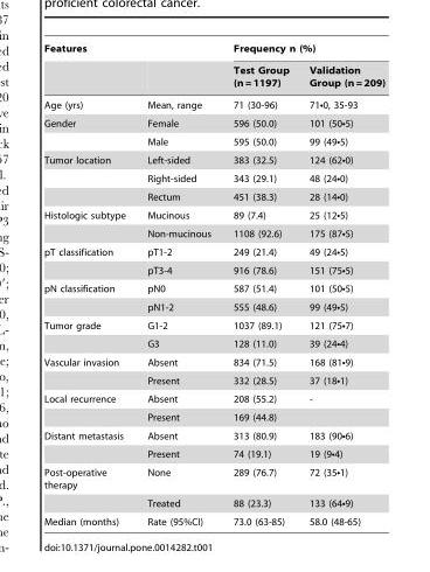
<table><thead><tr><td rowspan="2">Features</td><td rowspan="2"></td><td colspan="2">Frequency n (%)</td></tr><tr><td>Test Group (n = 1197)</td><td>Validation Group (n = 209)</td></tr></thead><tbody><tr><td>Age (yrs)</td><td>Mean, range</td><td>71 (30-96)</td><td>71•0, 35-93</td></tr><tr><td rowspan="2">Gender</td><td>Female</td><td>596 (50.0)</td><td>101 (50•5)</td></tr><tr><td>Male</td><td>595 (50.0)</td><td>99 (49•5)</td></tr><tr><td rowspan="3">Tumor location</td><td>Left-sided</td><td>383 (32.5)</td><td>124 (62•0)</td></tr><tr><td>Right-sided</td><td>343 (29.1)</td><td>48 (24•0)</td></tr><tr><td>Rectum</td><td>451 (38.3)</td><td>28 (14•0)</td></tr><tr><td rowspan="2">Histologic subtype</td><td>Mucinous</td><td>89 (7.4)</td><td>25 (12•5)</td></tr><tr><td>Non-mucinous</td><td>1108 (92.6)</td><td>175 (87•5)</td></tr><tr><td rowspan="2">pT classification</td><td>pT1-2</td><td>249 (21.4)</td><td>49 (24•5)</td></tr><tr><td>pT3-4</td><td>916 (78.6)</td><td>151 (75•5)</td></tr><tr><td rowspan="2">pN classification</td><td>pN0</td><td>587 (51.4)</td><td>101 (50•5)</td></tr><tr><td>pN1-2</td><td>555 (48.6)</td><td>99 (49•5)</td></tr><tr><td rowspan="2">Tumor grade</td><td>G1-2</td><td>1037 (89.1)</td><td>121 (75•7)</td></tr><tr><td>G3</td><td>128 (11.0)</td><td>39 (24•4)</td></tr><tr><td rowspan="2">Vascular invasion</td><td>Absent</td><td>834 (71.5)</td><td>168 (81•9)</td></tr><tr><td>Present</td><td>332 (28.5)</td><td>37 (18•1)</td></tr><tr><td rowspan="2">Local recurrence</td><td>Absent</td><td>208 (55.2)</td><td>-</td></tr><tr><td>Present</td><td>169 (44.8)</td><td></td></tr><tr><td rowspan="2">Distant metastasis</td><td>Absent</td><td>313 (80.9)</td><td>183 (90•6)</td></tr><tr><td>Present</td><td>74 (19.1)</td><td>19 (9•4)</td></tr><tr><td rowspan="2">Post-operative therapy</td><td>None</td><td>289 (76.7)</td><td>72 (35•1)</td></tr><tr><td>Treated</td><td>88 (23.3)</td><td>133 (64•9)</td></tr><tr><td>Median (months)</td><td>Rate (95%CI)</td><td>73.0 (63-85)</td><td>58.0 (48-65)</td></tr></tbody></table>